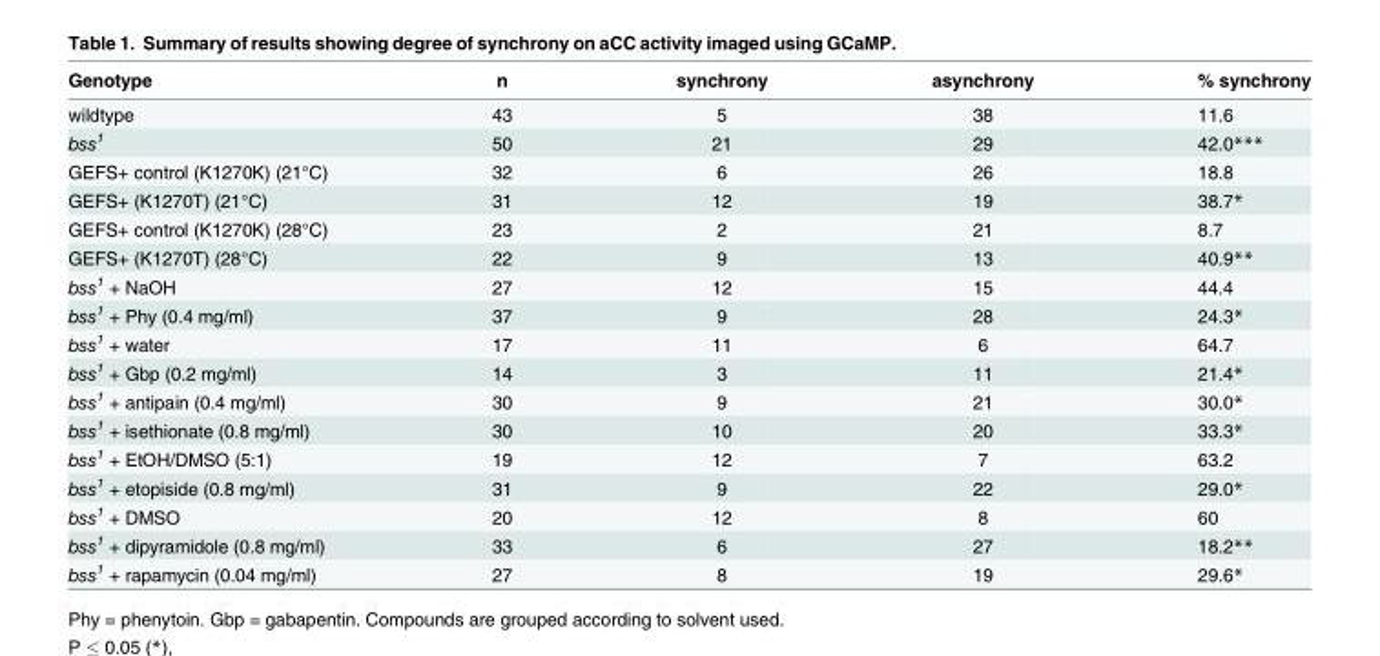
<table><thead><tr><td>Genotype</td><td>n</td><td>synchrony</td><td>asynchrony</td><td>% synchrony</td></tr></thead><tbody><tr><td>wildtype</td><td>43</td><td>5</td><td>38</td><td>11.6</td></tr><tr><td>bss<sup>1</sup></td><td>50</td><td>21</td><td>29</td><td>42.0***</td></tr><tr><td>GEFS+ control (K1270K) (21°C)</td><td>32</td><td>6</td><td>26</td><td>18.8</td></tr><tr><td>GEFS+ (K1270T) (21°C)</td><td>31</td><td>12</td><td>19</td><td>38.7*</td></tr><tr><td>GEFS+ control (K1270K) (28°C)</td><td>23</td><td>2</td><td>21</td><td>8.7</td></tr><tr><td>GEFS+ (K1270T) (28°C)</td><td>22</td><td>9</td><td>13</td><td>40.9**</td></tr><tr><td>bss<sup>1</sup> + NaOH</td><td>27</td><td>12</td><td>15</td><td>44.4</td></tr><tr><td>bss<sup>1</sup> + Phy (0.4 mg/ml)</td><td>37</td><td>9</td><td>28</td><td>24.3*</td></tr><tr><td>bss<sup>1</sup> + water</td><td>17</td><td>11</td><td>6</td><td>64.7</td></tr><tr><td>bss<sup>1</sup> + Gbp (0.2 mg/ml)</td><td>14</td><td>3</td><td>11</td><td>21.4*</td></tr><tr><td>bss<sup>1</sup> + antipain (0.4 mg/ml)</td><td>30</td><td>9</td><td>21</td><td>30.0*</td></tr><tr><td>bss<sup>1</sup> + isethionate (0.8 mg/ml)</td><td>30</td><td>10</td><td>20</td><td>33.3*</td></tr><tr><td>bss<sup>1</sup> + EtOH/DMSO (5:1)</td><td>19</td><td>12</td><td>7</td><td>63.2</td></tr><tr><td>bss<sup>1</sup> + etopiside (0.8 mg/ml)</td><td>31</td><td>9</td><td>22</td><td>29.0*</td></tr><tr><td>bss<sup>1</sup> + DMSO</td><td>20</td><td>12</td><td>8</td><td>60</td></tr><tr><td>bss<sup>1</sup> + dipyramidole (0.8 mg/ml)</td><td>33</td><td>6</td><td>27</td><td>18.2**</td></tr><tr><td>bss<sup>1</sup> + rapamycin (0.04 mg/ml)</td><td>27</td><td>8</td><td>19</td><td>29.6*</td></tr></tbody></table>